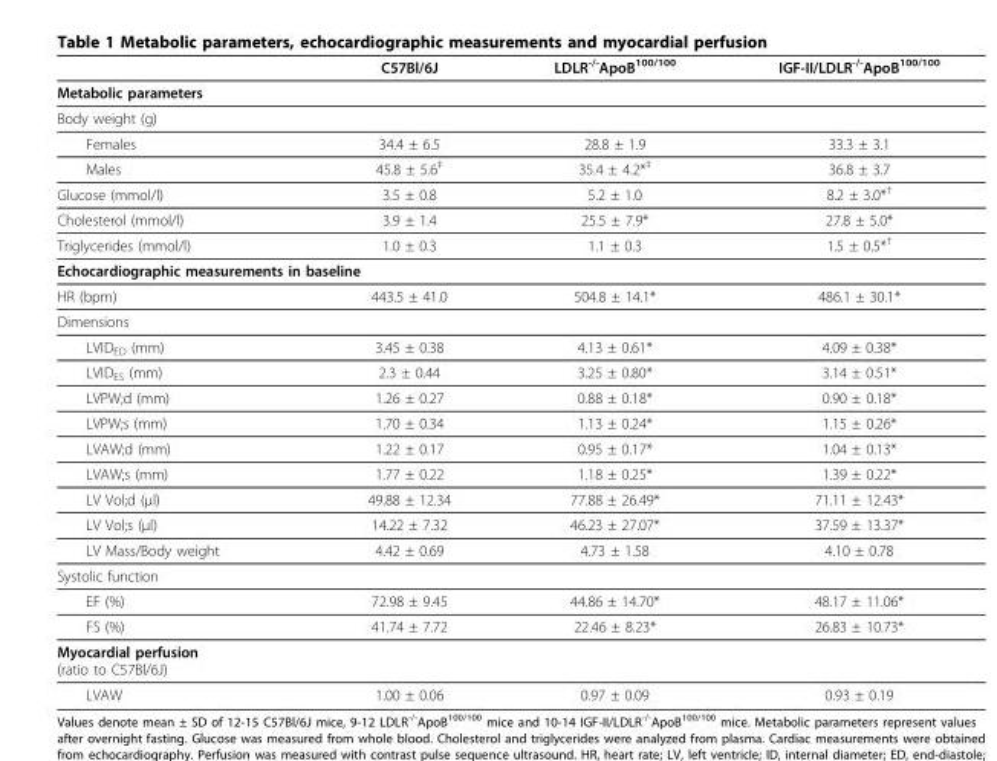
<table><thead><tr><td></td><td>C57Bl/6J</td><td>LDLR<sup>-/-</sup>ApoB<sup>100/100</sup></td><td>IGF-II/LDLR<sup>-/-</sup>ApoB<sup>100/100</sup></td></tr></thead><tbody><tr><td colspan="4">Metabolic parameters</td></tr><tr><td colspan="4">Body weight (g)</td></tr><tr><td>Females</td><td>34.4 ± 6.5</td><td>28.8 ± 1.9</td><td>33.3 ± 3.1</td></tr><tr><td>Males</td><td>45.8 ± 5.6<sup>‡</sup></td><td>35.4 ± 4.2*<sup>‡</sup></td><td>36.8 ± 3.7</td></tr><tr><td>Glucose (mmol/l)</td><td>3.5 ± 0.8</td><td>5.2 ± 1.0</td><td>8.2 ± 3.0*<sup>†</sup></td></tr><tr><td>Cholesterol (mmol/l)</td><td>3.9 ± 1.4</td><td>25.5 ± 7.9*</td><td>27.8 ± 5.0*</td></tr><tr><td>Triglycerides (mmol/l)</td><td>1.0 ± 0.3</td><td>1.1 ± 0.3</td><td>1.5 ± 0.5*<sup>†</sup></td></tr><tr><td colspan="4">Echocardiographic measurements in baseline</td></tr><tr><td>HR (bpm)</td><td>443.5 ± 41.0</td><td>504.8 ± 14.1*</td><td>486.1 ± 30.1*</td></tr><tr><td colspan="4">Dimensions</td></tr><tr><td>LVID<sub>ED</sub> (mm)</td><td>3.45 ± 0.38</td><td>4.13 ± 0.61*</td><td>4.09 ± 0.38*</td></tr><tr><td>LVID<sub>ES</sub> (mm)</td><td>2.3 ± 0.44</td><td>3.25 ± 0.80*</td><td>3.14 ± 0.51*</td></tr><tr><td>LVPW;d (mm)</td><td>1.26 ± 0.27</td><td>0.88 ± 0.18*</td><td>0.90 ± 0.18*</td></tr><tr><td>LVPW;s (mm)</td><td>1.70 ± 0.34</td><td>1.13 ± 0.24*</td><td>1.15 ± 0.26*</td></tr><tr><td>LVAW;d (mm)</td><td>1.22 ± 0.17</td><td>0.95 ± 0.17*</td><td>1.04 ± 0.13*</td></tr><tr><td>LVAW;s (mm)</td><td>1.77 ± 0.22</td><td>1.18 ± 0.25*</td><td>1.39 ± 0.22*</td></tr><tr><td>LV Vol;d (μl)</td><td>49.88 ± 12.34</td><td>77.88 ± 26.49*</td><td>71.11 ± 12.43*</td></tr><tr><td>LV Vol;s (μl)</td><td>14.22 ± 7.32</td><td>46.23 ± 27.07*</td><td>37.59 ± 13.37*</td></tr><tr><td>LV Mass/Body weight</td><td>4.42 ± 0.69</td><td>4.73 ± 1.58</td><td>4.10 ± 0.78</td></tr><tr><td colspan="4">Systolic function</td></tr><tr><td>EF (%)</td><td>72.98 ± 9.45</td><td>44.86 ± 14.70*</td><td>48.17 ± 11.06*</td></tr><tr><td>FS (%)</td><td>41.74 ± 7.72</td><td>22.46 ± 8.23*</td><td>26.83 ± 10.73*</td></tr><tr><td colspan="4">Myocardial perfusion (ratio to C57Bl/6J)</td></tr><tr><td>LVAW</td><td>1.00 ± 0.06</td><td>0.97 ± 0.09</td><td>0.93 ± 0.19</td></tr></tbody></table>